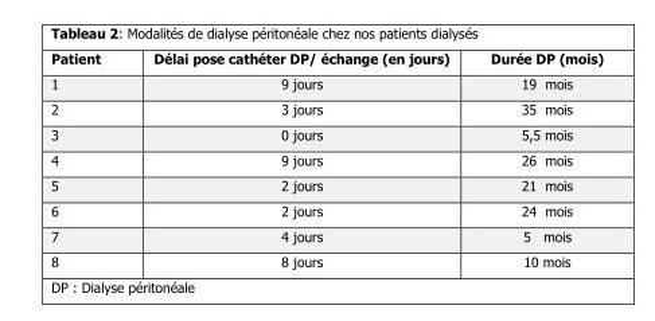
<table><thead><tr><td>Patient</td><td>Délai pose cathéter DP/ échange (en jours)</td><td>Durée DP (mois)</td></tr></thead><tbody><tr><td>1</td><td>9 jours</td><td>19 mois</td></tr><tr><td>2</td><td>3 jours</td><td>35 mois</td></tr><tr><td>3</td><td>0 jours</td><td>5,5 mois</td></tr><tr><td>4</td><td>9 jours</td><td>26 mois</td></tr><tr><td>5</td><td>2 jours</td><td>21 mois</td></tr><tr><td>6</td><td>2 jours</td><td>24 mois</td></tr><tr><td>7</td><td>4 jours</td><td>5 mois</td></tr><tr><td>8</td><td>8 jours</td><td>10 mois</td></tr></tbody></table>